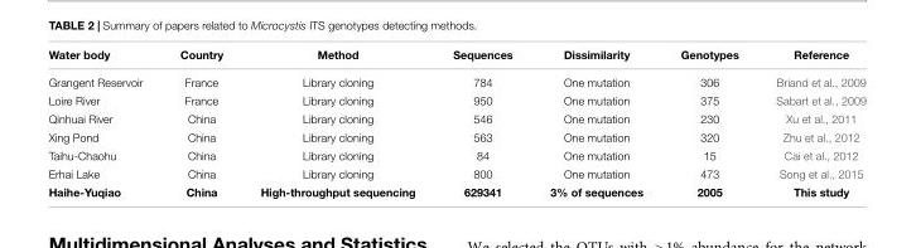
<table><thead><tr><td>Water body</td><td>Country</td><td>Method</td><td>Sequences</td><td>Dissimilarity</td><td>Genotypes</td><td>Reference</td></tr></thead><tbody><tr><td>Grangent Reservoir</td><td>France</td><td>Library cloning</td><td>784</td><td>One mutation</td><td>306</td><td>Briand et al., 2009</td></tr><tr><td>Loire River</td><td>France</td><td>Library cloning</td><td>950</td><td>One mutation</td><td>375</td><td>Sabart et al., 2009</td></tr><tr><td>Qinhuai River</td><td>China</td><td>Library cloning</td><td>546</td><td>One mutation</td><td>230</td><td>Xu et al., 2011</td></tr><tr><td>Xing Pond</td><td>China</td><td>Library cloning</td><td>563</td><td>One mutation</td><td>320</td><td>Zhu et al., 2012</td></tr><tr><td>Taihu-Chaohu</td><td>China</td><td>Library cloning</td><td>84</td><td>One mutation</td><td>15</td><td>Cai et al., 2012</td></tr><tr><td>Erhai Lake</td><td>China</td><td>Library cloning</td><td>800</td><td>One mutation</td><td>473</td><td>Song et al., 2015</td></tr><tr><td>Haihe-Yuqiao</td><td>China</td><td>High-throughput sequencing</td><td>629341</td><td>3% of sequences</td><td>2005</td><td>This study</td></tr></tbody></table>